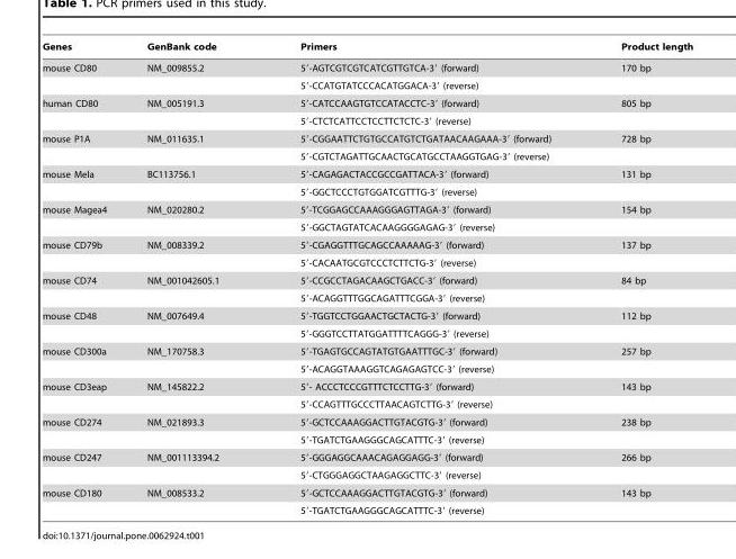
<table><thead><tr><td>Genes</td><td>GenBank code</td><td>Primers</td><td>Product length</td></tr></thead><tbody><tr><td rowspan="2">mouse CD80</td><td>NM_009855.2</td><td>5′-AGTCGTCGTCATCGTTGTCA-3′ (forward)</td><td>170 bp</td></tr><tr><td></td><td>5′-CCATGTATCCCACATGGACA-3′ (reverse)</td><td></td></tr><tr><td rowspan="2">human CD80</td><td>NM_005191.3</td><td>5′-CATCCAAGTGTCCATACCTC-3′ (forward)</td><td>805 bp</td></tr><tr><td></td><td>5′-CTCTCATTCCTCCTTCTCTC-3′ (reverse)</td><td></td></tr><tr><td rowspan="2">mouse P1A</td><td>NM_011635.1</td><td>5′-CGGAATTCTGTGCCATGTCTGATAACAAGAAA-3′ (forward)</td><td>728 bp</td></tr><tr><td></td><td>5′-CGTCTAGATTGCAACTGCATGCCTAAGGTGAG-3′ (reverse)</td><td></td></tr><tr><td rowspan="2">mouse Mela</td><td>BC113756.1</td><td>5′-CAGAGACTACCGCCGATTACA-3′ (forward)</td><td>131 bp</td></tr><tr><td></td><td>5′-GGCTCCCTGTGGATCGTTTG-3′ (reverse)</td><td></td></tr><tr><td rowspan="2">mouse Magea4</td><td>NM_020280.2</td><td>5′-TCGGAGCCAAAGGGAGTTAGA-3′ (forward)</td><td>154 bp</td></tr><tr><td></td><td>5′-GGCTAGTATCACAAGGGGAGAG-3′ (reverse)</td><td></td></tr><tr><td rowspan="2">mouse CD79b</td><td>NM_008339.2</td><td>5′-CGAGGTTTGCAGCCAAAAAG-3′ (forward)</td><td>137 bp</td></tr><tr><td></td><td>5′-CACAATGCGTCCCTCTTCTG-3′ (reverse)</td><td></td></tr><tr><td rowspan="2">mouse CD74</td><td>NM_001042605.1</td><td>5′-CCGCCTAGACAAGCTGACC-3′ (forward)</td><td>84 bp</td></tr><tr><td></td><td>5′-ACAGGTTTGGCAGATTTCGGA-3′ (reverse)</td><td></td></tr><tr><td rowspan="2">mouse CD48</td><td>NM_007649.4</td><td>5′-TGGTCCTGGAACTGCTACTG-3′ (forward)</td><td>112 bp</td></tr><tr><td></td><td>5′-GGGTCCTTATGGATTTTCAGGG-3′ (reverse)</td><td></td></tr><tr><td rowspan="2">mouse CD300a</td><td>NM_170758.3</td><td>5′-TGAGTGCCAGTATGTGAATTTGC-3′ (forward)</td><td>257 bp</td></tr><tr><td></td><td>5′-ACAGGTAAAGGTCAGAGAGTCC-3′ (reverse)</td><td></td></tr><tr><td rowspan="2">mouse CD3eap</td><td>NM_145822.2</td><td>5′- ACCCTCCCGTTTCTCCTTG-3′ (forward)</td><td>143 bp</td></tr><tr><td></td><td>5′-CCAGTTTGCCCTTAACAGTCTTG-3′ (reverse)</td><td></td></tr><tr><td rowspan="2">mouse CD274</td><td>NM_021893.3</td><td>5′-GCTCCAAAGGACTTGTACGTG-3′ (forward)</td><td>238 bp</td></tr><tr><td></td><td>5′-TGATCTGAAGGGCAGCATTTC-3′ (reverse)</td><td></td></tr><tr><td rowspan="2">mouse CD247</td><td>NM_001113394.2</td><td>5′-GGGAGGCAAACAGAGGAGG-3′ (forward)</td><td>266 bp</td></tr><tr><td></td><td>5′-CTGGGAGGCTAAGAGGCTTC-3′ (reverse)</td><td></td></tr><tr><td rowspan="2">mouse CD180</td><td>NM_008533.2</td><td>5′-GCTCCAAAGGACTTGTACGTG-3′ (forward)</td><td>143 bp</td></tr><tr><td></td><td>5′-TGATCTGAAGGGCAGCATTTC-3′ (reverse)</td><td></td></tr></tbody></table>